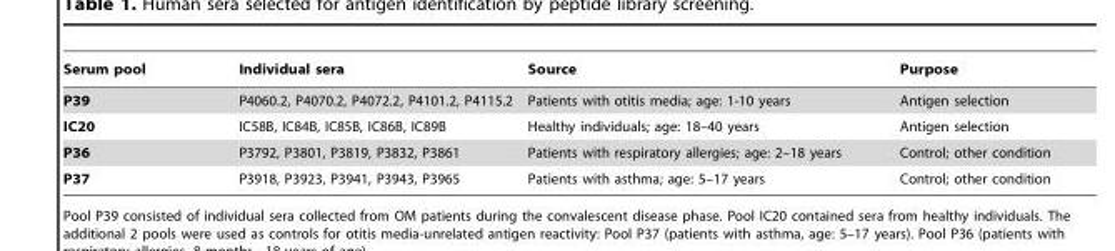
<table><thead><tr><td>Serum pool</td><td>Individual sera</td><td>Source</td><td>Purpose</td></tr></thead><tbody><tr><td>P39</td><td>P4060.2, P4070.2, P4072.2, P4101.2, P4115.2</td><td>Patients with otitis media; age: 1-10 years</td><td>Antigen selection</td></tr><tr><td>IC20</td><td>IC58B, IC84B, IC85B, IC86B, IC89B</td><td>Healthy individuals; age: 18–40 years</td><td>Antigen selection</td></tr><tr><td>P36</td><td>P3792, P3801, P3819, P3832, P3861</td><td>Patients with respiratory allergies; age: 2–18 years</td><td>Control; other condition</td></tr><tr><td>P37</td><td>P3918, P3923, P3941, P3943, P3965</td><td>Patients with asthma; age: 5–17 years</td><td>Control; other condition</td></tr></tbody></table>